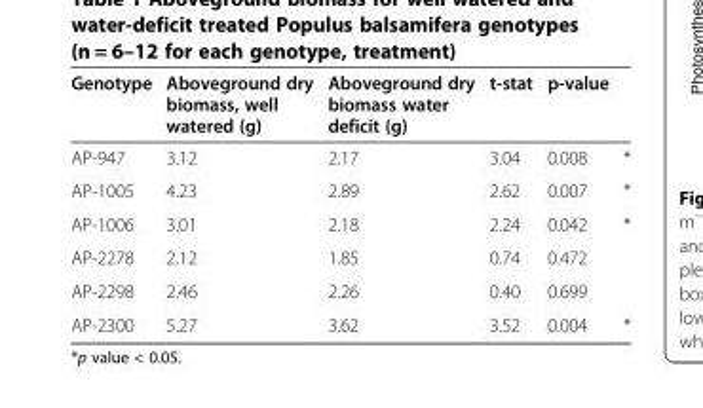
<table><thead><tr><td>Genotype</td><td>Aboveground dry biomass, well watered (g)</td><td>Aboveground dry biomass water deficit (g)</td><td>t-stat</td><td>p-value</td><td></td></tr></thead><tbody><tr><td>AP-947</td><td>3.12</td><td>2.17</td><td>3.04</td><td>0.008</td><td>*</td></tr><tr><td>AP-1005</td><td>4.23</td><td>2.89</td><td>2.62</td><td>0.007</td><td>*</td></tr><tr><td>AP-1006</td><td>3.01</td><td>2.18</td><td>2.24</td><td>0.042</td><td>*</td></tr><tr><td>AP-2278</td><td>2.12</td><td>1.85</td><td>0.74</td><td>0.472</td><td></td></tr><tr><td>AP-2298</td><td>2.46</td><td>2.26</td><td>0.40</td><td>0.699</td><td></td></tr><tr><td>AP-2300</td><td>5.27</td><td>3.62</td><td>3.52</td><td>0.004</td><td>*</td></tr></tbody></table>